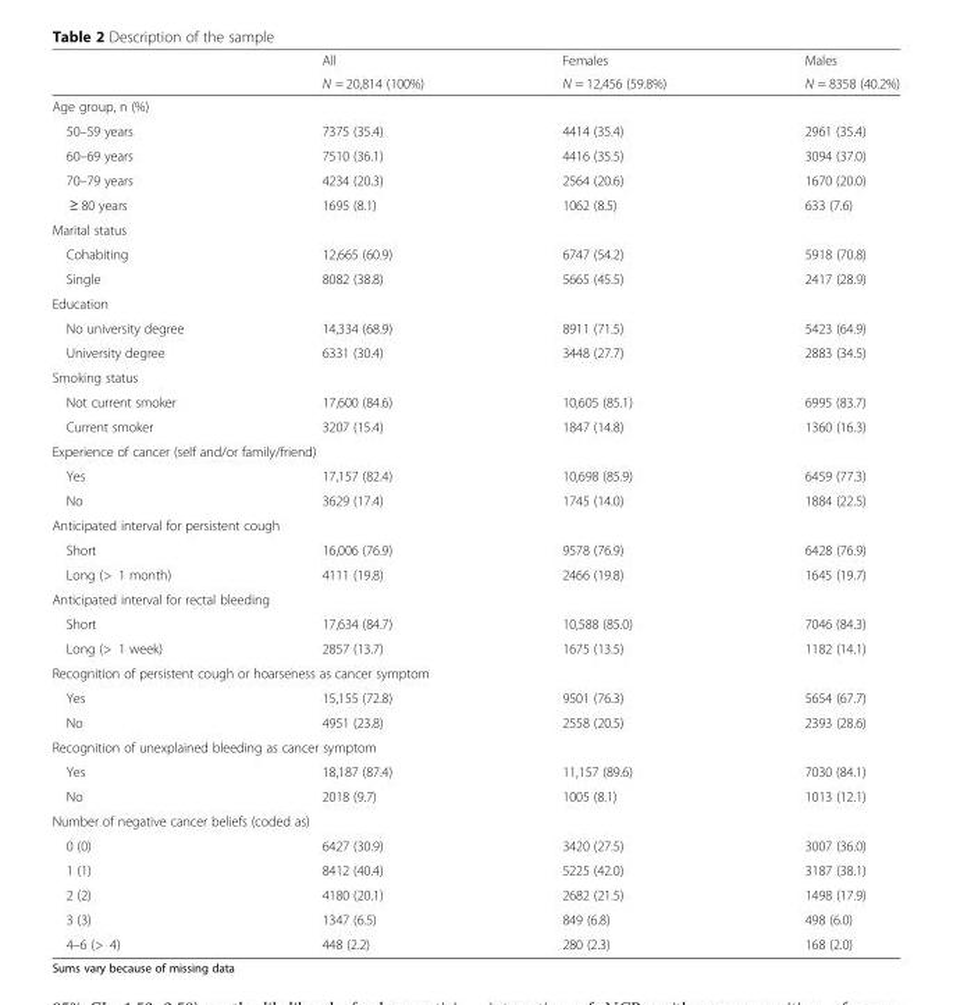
<table><thead><tr><td rowspan="2"></td><td rowspan="2">All N = 20,814 (100%)</td><td rowspan="2">Females N = 12,456 (59.8%)</td><td rowspan="2">Males N = 8358 (40.2%)</td></tr><tr></tr></thead><tbody><tr><td colspan="4">Age group, n (%)</td></tr><tr><td>50–59 years</td><td>7375 (35.4)</td><td>4414 (35.4)</td><td>2961 (35.4)</td></tr><tr><td>60–69 years</td><td>7510 (36.1)</td><td>4416 (35.5)</td><td>3094 (37.0)</td></tr><tr><td>70–79 years</td><td>4234 (20.3)</td><td>2564 (20.6)</td><td>1670 (20.0)</td></tr><tr><td>≥ 80 years</td><td>1695 (8.1)</td><td>1062 (8.5)</td><td>633 (7.6)</td></tr><tr><td colspan="4">Marital status</td></tr><tr><td>Cohabiting</td><td>12,665 (60.9)</td><td>6747 (54.2)</td><td>5918 (70.8)</td></tr><tr><td>Single</td><td>8082 (38.8)</td><td>5665 (45.5)</td><td>2417 (28.9)</td></tr><tr><td colspan="4">Education</td></tr><tr><td>No university degree</td><td>14,334 (68.9)</td><td>8911 (71.5)</td><td>5423 (64.9)</td></tr><tr><td>University degree</td><td>6331 (30.4)</td><td>3448 (27.7)</td><td>2883 (34.5)</td></tr><tr><td colspan="4">Smoking status</td></tr><tr><td>Not current smoker</td><td>17,600 (84.6)</td><td>10,605 (85.1)</td><td>6995 (83.7)</td></tr><tr><td>Current smoker</td><td>3207 (15.4)</td><td>1847 (14.8)</td><td>1360 (16.3)</td></tr><tr><td colspan="4">Experience of cancer (self and/or family/friend)</td></tr><tr><td>Yes</td><td>17,157 (82.4)</td><td>10,698 (85.9)</td><td>6459 (77.3)</td></tr><tr><td>No</td><td>3629 (17.4)</td><td>1745 (14.0)</td><td>1884 (22.5)</td></tr><tr><td colspan="4">Anticipated interval for persistent cough</td></tr><tr><td>Short</td><td>16,006 (76.9)</td><td>9578 (76.9)</td><td>6428 (76.9)</td></tr><tr><td>Long (&gt; 1 month)</td><td>4111 (19.8)</td><td>2466 (19.8)</td><td>1645 (19.7)</td></tr><tr><td colspan="4">Anticipated interval for rectal bleeding</td></tr><tr><td>Short</td><td>17,634 (84.7)</td><td>10,588 (85.0)</td><td>7046 (84.3)</td></tr><tr><td>Long (&gt; 1 week)</td><td>2857 (13.7)</td><td>1675 (13.5)</td><td>1182 (14.1)</td></tr><tr><td colspan="4">Recognition of persistent cough or hoarseness as cancer symptom</td></tr><tr><td>Yes</td><td>15,155 (72.8)</td><td>9501 (76.3)</td><td>5654 (67.7)</td></tr><tr><td>No</td><td>4951 (23.8)</td><td>2558 (20.5)</td><td>2393 (28.6)</td></tr><tr><td colspan="4">Recognition of unexplained bleeding as cancer symptom</td></tr><tr><td>Yes</td><td>18,187 (87.4)</td><td>11,157 (89.6)</td><td>7030 (84.1)</td></tr><tr><td>No</td><td>2018 (9.7)</td><td>1005 (8.1)</td><td>1013 (12.1)</td></tr><tr><td colspan="4">Number of negative cancer beliefs (coded as)</td></tr><tr><td>0 (0)</td><td>6427 (30.9)</td><td>3420 (27.5)</td><td>3007 (36.0)</td></tr><tr><td>1 (1)</td><td>8412 (40.4)</td><td>5225 (42.0)</td><td>3187 (38.1)</td></tr><tr><td>2 (2)</td><td>4180 (20.1)</td><td>2682 (21.5)</td><td>1498 (17.9)</td></tr><tr><td>3 (3)</td><td>1347 (6.5)</td><td>849 (6.8)</td><td>498 (6.0)</td></tr><tr><td>4–6 (&gt; 4)</td><td>448 (2.2)</td><td>280 (2.3)</td><td>168 (2.0)</td></tr></tbody></table>